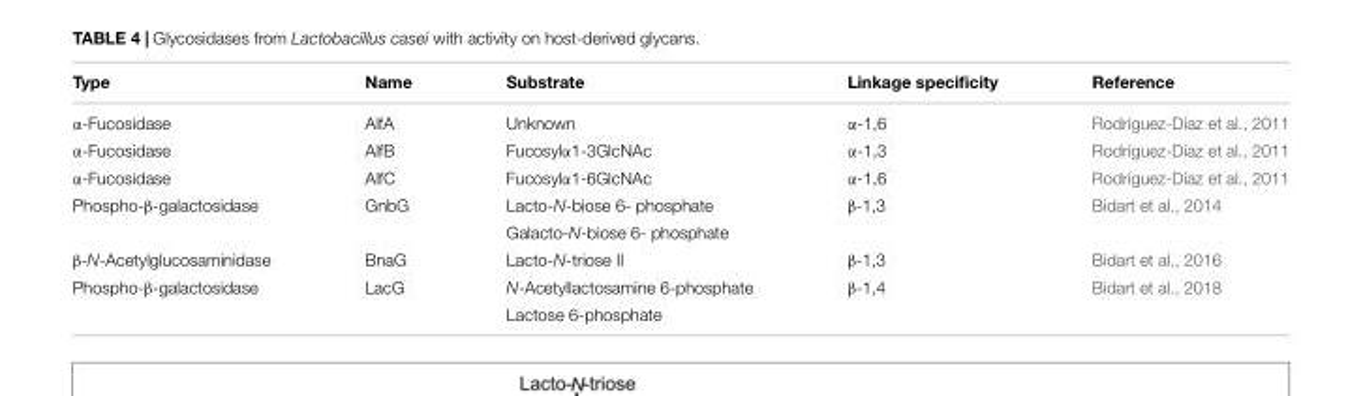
<table><thead><tr><td>Type</td><td>Name</td><td>Substrate</td><td>Linkage specificity</td><td>Reference</td></tr></thead><tbody><tr><td>α-Fucosidase</td><td>AlfA</td><td>Unknown</td><td>α-1,6</td><td>Rodríguez-Díaz et al., 2011</td></tr><tr><td>α-Fucosidase</td><td>AlfB</td><td>Fucosylα1-3GlcNAc</td><td>α-1,3</td><td>Rodríguez-Díaz et al., 2011</td></tr><tr><td>α-Fucosidase</td><td>AlfC</td><td>Fucosylα1-6GlcNAc</td><td>α-1,6</td><td>Rodríguez-Díaz et al., 2011</td></tr><tr><td rowspan="2">Phospho-β-galactosidase</td><td>GnbG</td><td>Lacto-N-biose 6- phosphate</td><td>β-1,3</td><td>Bidart et al., 2014</td></tr><tr><td></td><td>Galacto-N-biose 6- phosphate</td><td></td><td></td></tr><tr><td>β-N-Acetylglucosaminidase</td><td>BnaG</td><td>Lacto-N-triose II</td><td>β-1,3</td><td>Bidart et al., 2016</td></tr><tr><td rowspan="2">Phospho-β-galactosidase</td><td>LacG</td><td>N-Acetyllactosamine 6-phosphate</td><td>β-1,4</td><td>Bidart et al., 2018</td></tr><tr><td></td><td>Lactose 6-phosphate</td><td></td><td></td></tr></tbody></table>